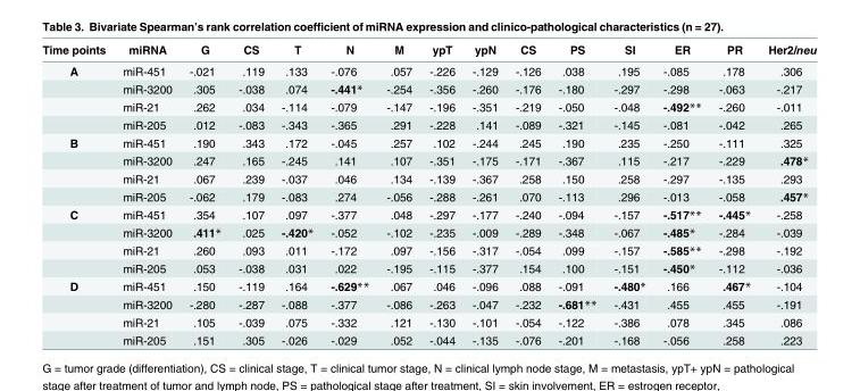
<table><thead><tr><td>Time points</td><td>miRNA</td><td>G</td><td>CS</td><td>T</td><td>N</td><td>M</td><td>ypT</td><td>ypN</td><td>CS</td><td>PS</td><td>SI</td><td>ER</td><td>PR</td><td>Her2/neu</td></tr></thead><tbody><tr><td rowspan="4">A</td><td>miR-451</td><td>-.021</td><td>.119</td><td>.133</td><td>-.076</td><td>.057</td><td>-.226</td><td>-.129</td><td>-.126</td><td>.038</td><td>.195</td><td>-.085</td><td>.178</td><td>.306</td></tr><tr><td>miR-3200</td><td>.305</td><td>-.038</td><td>.074</td><td>-.441*</td><td>-.254</td><td>-.356</td><td>-.260</td><td>-.176</td><td>-.180</td><td>-.297</td><td>-.298</td><td>-.063</td><td>-.217</td></tr><tr><td>miR-21</td><td>.262</td><td>.034</td><td>-.114</td><td>-.079</td><td>-.147</td><td>-.196</td><td>-.351</td><td>-.219</td><td>-.050</td><td>-.048</td><td>-.492**</td><td>-.260</td><td>-.011</td></tr><tr><td>miR-205</td><td>.012</td><td>-.083</td><td>-.343</td><td>-.365</td><td>.291</td><td>-.228</td><td>.141</td><td>-.089</td><td>-.321</td><td>-.145</td><td>-.081</td><td>-.042</td><td>.265</td></tr><tr><td rowspan="4">B</td><td>miR-451</td><td>.190</td><td>.343</td><td>.172</td><td>-.045</td><td>.257</td><td>.102</td><td>-.244</td><td>.245</td><td>.190</td><td>.235</td><td>-.250</td><td>-.111</td><td>.325</td></tr><tr><td>miR-3200</td><td>.247</td><td>.165</td><td>-.245</td><td>.141</td><td>.107</td><td>-.351</td><td>-.175</td><td>-.171</td><td>-.367</td><td>.115</td><td>-.217</td><td>-.229</td><td>.478*</td></tr><tr><td>miR-21</td><td>.067</td><td>.239</td><td>-.037</td><td>.046</td><td>.134</td><td>-.139</td><td>-.367</td><td>.258</td><td>.150</td><td>.258</td><td>-.297</td><td>-.135</td><td>.293</td></tr><tr><td>miR-205</td><td>-.062</td><td>.179</td><td>-.083</td><td>.274</td><td>-.056</td><td>-.288</td><td>-.261</td><td>.070</td><td>-.113</td><td>.296</td><td>-.013</td><td>-.058</td><td>.457*</td></tr><tr><td rowspan="4">C</td><td>miR-451</td><td>.354</td><td>.107</td><td>.097</td><td>-.377</td><td>.048</td><td>-.297</td><td>-.177</td><td>-.240</td><td>-.094</td><td>-.157</td><td>-.517**</td><td>-.445*</td><td>-.258</td></tr><tr><td>miR-3200</td><td>.411*</td><td>.025</td><td>-.420*</td><td>-.052</td><td>-.102</td><td>-.235</td><td>-.009</td><td>-.289</td><td>-.348</td><td>-.067</td><td>-.485*</td><td>-.284</td><td>-.039</td></tr><tr><td>miR-21</td><td>.260</td><td>.093</td><td>.011</td><td>-.172</td><td>.097</td><td>-.156</td><td>-.317</td><td>-.054</td><td>.099</td><td>-.157</td><td>-.585**</td><td>-.298</td><td>-.192</td></tr><tr><td>miR-205</td><td>.053</td><td>-.038</td><td>.031</td><td>.022</td><td>-.195</td><td>-.115</td><td>-.377</td><td>.154</td><td>.100</td><td>-.151</td><td>-.450*</td><td>-.112</td><td>-.036</td></tr><tr><td rowspan="4">D</td><td>miR-451</td><td>.150</td><td>-.119</td><td>.164</td><td>-.629**</td><td>.067</td><td>.046</td><td>-.096</td><td>.088</td><td>-.091</td><td>-.480*</td><td>.166</td><td>.467*</td><td>-.104</td></tr><tr><td>miR-3200</td><td>-.280</td><td>-.287</td><td>-.088</td><td>-.377</td><td>-.086</td><td>-.263</td><td>-.047</td><td>-.232</td><td>-.681**</td><td>-.431</td><td>.455</td><td>.455</td><td>-.191</td></tr><tr><td>miR-21</td><td>.105</td><td>-.039</td><td>.075</td><td>-.332</td><td>.121</td><td>-.130</td><td>-.101</td><td>-.054</td><td>-.122</td><td>-.386</td><td>.078</td><td>.345</td><td>.086</td></tr><tr><td>miR-205</td><td>.151</td><td>.305</td><td>-.026</td><td>-.029</td><td>.052</td><td>-.044</td><td>-.135</td><td>-.076</td><td>-.201</td><td>-.168</td><td>-.056</td><td>.258</td><td>.223</td></tr></tbody></table>